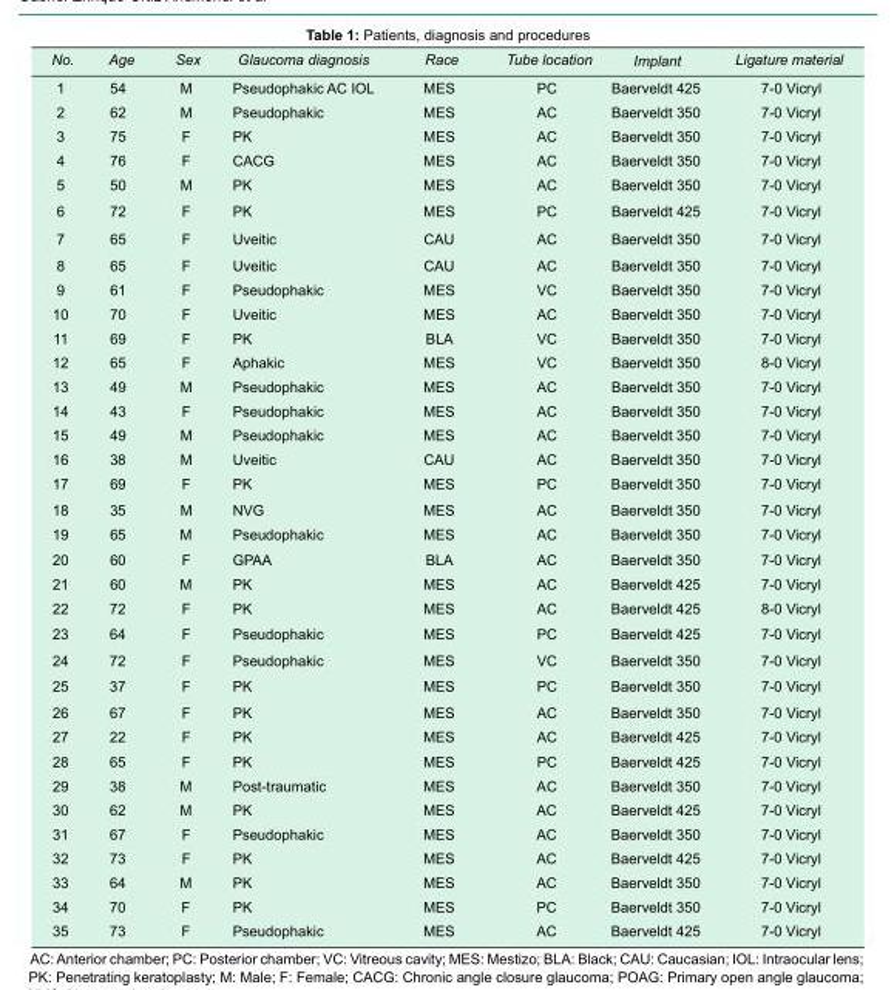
<table><tbody><tr><td>No.</td><td>Age</td><td>Sex</td><td>Gla ucoma diagnosis</td><td>Race</td><td>Tube location</td><td>Implant</td><td>Ligature material</td></tr><tr><td>1</td><td>54</td><td>M</td><td>Pseudophakic AC IOL</td><td>MES</td><td>PC</td><td>Baerveldt 425</td><td>7-0 Vicryl</td></tr><tr><td>2</td><td>62</td><td>M</td><td>Pseudophakic</td><td>MES</td><td>AC</td><td>Baerveldt 350</td><td>7-0 Vicryl</td></tr><tr><td>3</td><td>75</td><td>F</td><td>PK</td><td>MES</td><td>AC</td><td>Baerveldt 350</td><td>7-0 Vicryl</td></tr><tr><td>4</td><td>76</td><td>F</td><td>CACG</td><td>MES</td><td>AC</td><td>Baerveldt 350</td><td>7-0 Vicryl</td></tr><tr><td>5</td><td>50</td><td>M</td><td>PK</td><td>MES</td><td>AC</td><td>Baerveldt 350</td><td>7-0 Vicryl</td></tr><tr><td>6</td><td>72</td><td>F</td><td>PK</td><td>MES</td><td>PC</td><td>Baerveldt 425</td><td>7-0 Vicryl</td></tr><tr><td>7</td><td>65</td><td>F</td><td>Uveitic</td><td>CAU</td><td>AC</td><td>Baerveldt 350</td><td>7-0 Vicryl</td></tr><tr><td>8</td><td>65</td><td>F</td><td>Uveitic</td><td>CAU</td><td>AC</td><td>Baerveldt 350</td><td>7-0 Vicryl</td></tr><tr><td>9</td><td>61</td><td>F</td><td>Pseudophakic</td><td>MES</td><td>VC</td><td>Baerveldt 350</td><td>7-0 Vicryl</td></tr><tr><td>10</td><td>70</td><td>F</td><td>Uveitic</td><td>MES</td><td>AC</td><td>Baerveldt 350</td><td>7-0 Vicryl</td></tr><tr><td>11</td><td>69</td><td>F</td><td>PK</td><td>BLA</td><td>VC</td><td>Baerveldt 350</td><td>7-0 Vicryl</td></tr><tr><td>12</td><td>65</td><td>F</td><td>Aphakic</td><td>MES</td><td>VC</td><td>Baerveldt 350</td><td>8-0 Vicryl</td></tr><tr><td>13</td><td>49</td><td>M</td><td>Pseudophakic</td><td>MES</td><td>AC</td><td>Baerveldt 350</td><td>7-0 Vicryl</td></tr><tr><td>14</td><td>43</td><td>F</td><td>Pseudophakic</td><td>MES</td><td>AC</td><td>Baerveldt 350</td><td>7-0 Vicryl</td></tr><tr><td>15</td><td>49</td><td>M</td><td>Pseudophakic</td><td>MES</td><td>AC</td><td>Baerveldt 350</td><td>7-0 Vicryl</td></tr><tr><td>16</td><td>38</td><td>M</td><td>Uveitic</td><td>CAU</td><td>AC</td><td>Baerveldt 350</td><td>7-0 Vicryl</td></tr><tr><td>17</td><td>69</td><td>F</td><td>PK</td><td>MES</td><td>PC</td><td>Baerveldt 350</td><td>7-0 Vicryl</td></tr><tr><td>18</td><td>35</td><td>M</td><td>NVG</td><td>MES</td><td>AC</td><td>Baerveldt 350</td><td>7-0 Vicryl</td></tr><tr><td>19</td><td>65</td><td>M</td><td>Pseudophakic</td><td>MES</td><td>AC</td><td>Baerveldt 350</td><td>7-0 Vicryl</td></tr><tr><td>20</td><td>60</td><td>F</td><td>GPAA</td><td>BLA</td><td>AC</td><td>Baerveldt 350</td><td>7-0 Vicryl</td></tr><tr><td>21</td><td>60</td><td>M</td><td>PK</td><td>MES</td><td>AC</td><td>Baerveldt 425</td><td>7-0 Vicryl</td></tr><tr><td>22</td><td>72</td><td>F</td><td>PK</td><td>MES</td><td>AC</td><td>Baerveldt 425</td><td>8-0 Vicryl</td></tr><tr><td>23</td><td>64</td><td>F</td><td>Pseudophakic</td><td>MES</td><td>PC</td><td>Baerveldt 425</td><td>7-0 Vicryl</td></tr><tr><td>24</td><td>72</td><td>F</td><td>Pseudophakic</td><td>MES</td><td>VC</td><td>Baerveldt 350</td><td>7-0 Vicryl</td></tr><tr><td>25</td><td>37</td><td>F</td><td>PK</td><td>MES</td><td>PC</td><td>Baerveldt 350</td><td>7-0 Vicryl</td></tr><tr><td>26</td><td>67</td><td>F</td><td>PK</td><td>MES</td><td>AC</td><td>Baerveldt 350</td><td>7-0 Vicryl</td></tr><tr><td>27</td><td>22</td><td>F</td><td>PK</td><td>MES</td><td>AC</td><td>Baerveldt 425</td><td>7-0 Vicryl</td></tr><tr><td>28</td><td>65</td><td>F</td><td>PK</td><td>MES</td><td>PC</td><td>Baerveldt 425</td><td>7-0 Vicryl</td></tr><tr><td>29</td><td>38</td><td>M</td><td>Post-traumatic</td><td>MES</td><td>AC</td><td>Baerveldt 350</td><td>7-0 Vicryl</td></tr><tr><td>30</td><td>62</td><td>M</td><td>PK</td><td>MES</td><td>AC</td><td>Baerveldt 425</td><td>7-0 Vicryl</td></tr><tr><td>31</td><td>67</td><td>F</td><td>Pseudophakic</td><td>MES</td><td>AC</td><td>Baerveldt 350</td><td>7-0 Vicryl</td></tr><tr><td>32</td><td>73</td><td>F</td><td>PK</td><td>MES</td><td>AC</td><td>Baerveldt 425</td><td>7-0 Vicryl</td></tr><tr><td>33</td><td>64</td><td>M</td><td>PK</td><td>MES</td><td>AC</td><td>Baerveldt 350</td><td>7-0 Vicryl</td></tr><tr><td>34</td><td>70</td><td>F</td><td>PK</td><td>MES</td><td>PC</td><td>Baerveldt 350</td><td>7-0 Vicryl</td></tr><tr><td>35</td><td>73</td><td>F</td><td>Pseudophakic</td><td>MES</td><td>AC</td><td>Baerveldt 425</td><td>7-0 Vicryl</td></tr></tbody></table>